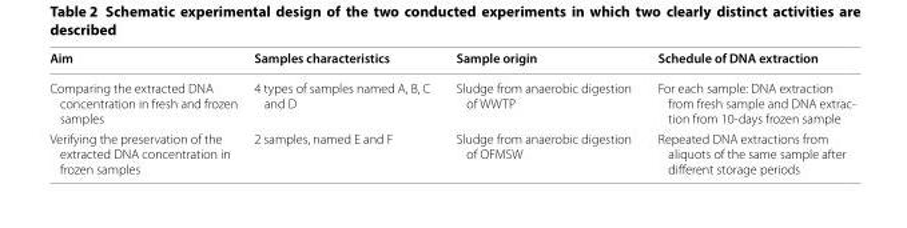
<table><thead><tr><td>Aim</td><td>Samples characteristics</td><td>Sample origin</td><td>Schedule of DNA extraction</td></tr></thead><tbody><tr><td>Comparing the extracted DNA concentration in fresh and frozen samples</td><td>4 types of samples named A, B, C and D</td><td>Sludge from anaerobic digestion of WWTP</td><td>For each sample: DNA extraction from fresh sample and DNA extrac- tion from 10-days frozen sample</td></tr><tr><td>Verifying the preservation of the extracted DNA concentration in frozen samples</td><td>2 samples, named E and F</td><td>Sludge from anaerobic digestion of OFMSW</td><td>Repeated DNA extractions from aliquots of the same sample after different storage periods</td></tr></tbody></table>